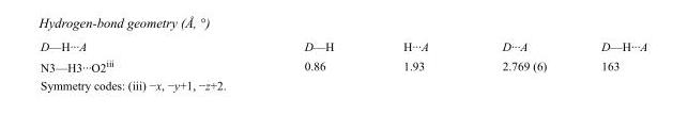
<table><tbody><tr><td>D—H···A</td><td>D—H</td><td>H···A</td><td>D···A</td><td>D—H···A</td></tr><tr><td>N3—H3···O2<sup>iii</sup></td><td>0.86</td><td>1.93</td><td>2.769 (6)</td><td>163</td></tr></tbody></table>